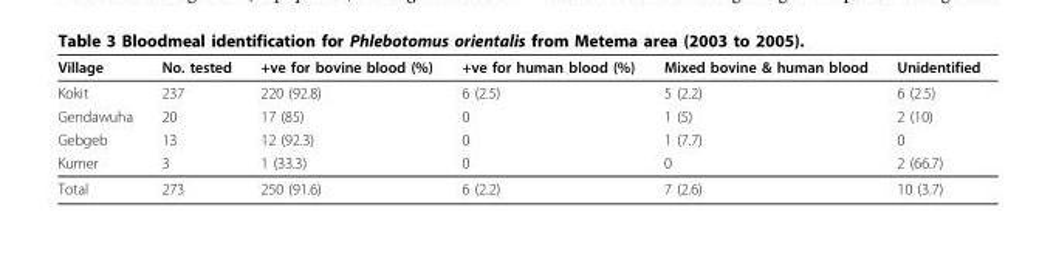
<table><thead><tr><td>Village</td><td>No. tested</td><td>+ve for bovine blood (%)</td><td>+ve for human blood (%)</td><td>Mixed bovine &amp; human blood</td><td>Unidentified</td></tr></thead><tbody><tr><td>Kokit</td><td>237</td><td>220 (92.8)</td><td>6 (2.5)</td><td>5 (2.2)</td><td>6 (2.5)</td></tr><tr><td>Gendawuha</td><td>20</td><td>17 (85)</td><td>0</td><td>1 (5)</td><td>2 (10)</td></tr><tr><td>Gebgeb</td><td>13</td><td>12 (92.3)</td><td>0</td><td>1 (7.7)</td><td>0</td></tr><tr><td>Kumer</td><td>3</td><td>1 (33.3)</td><td>0</td><td>0</td><td>2 (66.7)</td></tr><tr><td>Total</td><td>273</td><td>250 (91.6)</td><td>6 (2.2)</td><td>7 (2.6)</td><td>10 (3.7)</td></tr></tbody></table>